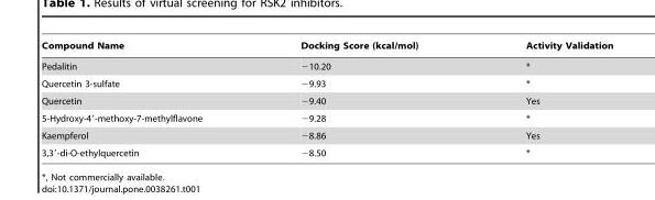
<table><thead><tr><td>Compound Name</td><td>Docking Score (kcal/mol)</td><td>Activity Validation</td></tr></thead><tbody><tr><td>Pedalitin</td><td>−10.20</td><td>*</td></tr><tr><td>Quercetin 3-sulfate</td><td>−9.93</td><td>*</td></tr><tr><td>Quercetin</td><td>−9.40</td><td>Yes</td></tr><tr><td>5-Hydroxy-4′-methoxy-7-methylflavone</td><td>−9.28</td><td>*</td></tr><tr><td>Kaempferol</td><td>−8.86</td><td>Yes</td></tr><tr><td>3,3′-di-O-ethylquercetin</td><td>−8.50</td><td>*</td></tr></tbody></table>